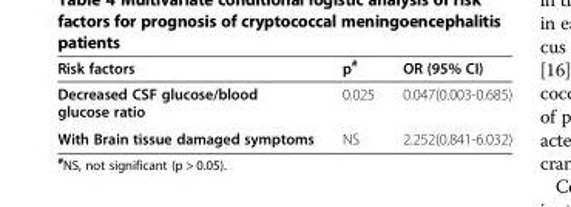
<table><thead><tr><td>Risk factors</td><td>p<sup>#</sup></td><td>OR (95% CI)</td></tr></thead><tbody><tr><td>Decreased CSF glucose/blood glucose ratio</td><td>0.025</td><td>0.047(0.003-0.685)</td></tr><tr><td>With Brain tissue damaged symptoms</td><td>NS</td><td>2.252(0.841-6.032)</td></tr></tbody></table>